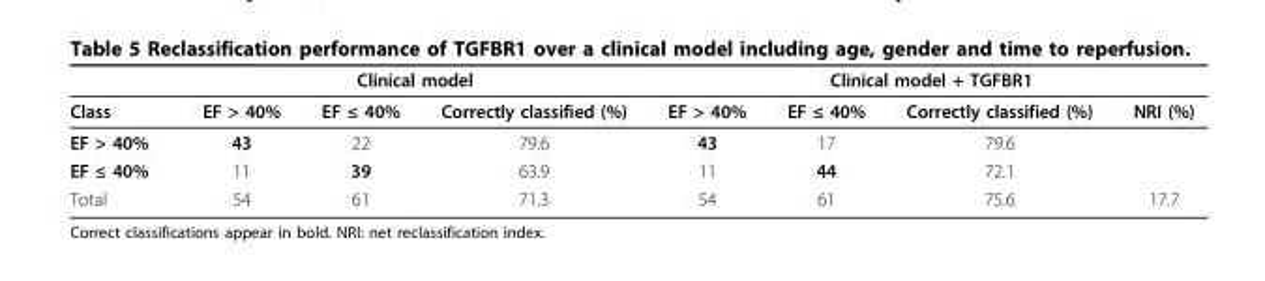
<table><thead><tr><td rowspan="2">Class</td><td colspan="3">Clinical model</td><td colspan="4">Clinical model + TGFBR1</td></tr><tr><td>EF &gt; 40%</td><td>EF ≤ 40%</td><td>Correctly classified (%)</td><td>EF &gt; 40%</td><td>EF ≤ 40%</td><td>Correctly classified (%)</td><td>NRI (%)</td></tr></thead><tbody><tr><td>EF &gt; 40%</td><td>43</td><td>22</td><td>79.6</td><td>43</td><td>17</td><td>79.6</td><td></td></tr><tr><td>EF ≤ 40%</td><td>11</td><td>39</td><td>63.9</td><td>11</td><td>44</td><td>72.1</td><td></td></tr><tr><td>Total</td><td>54</td><td>61</td><td>71.3</td><td>54</td><td>61</td><td>75.6</td><td>17.7</td></tr></tbody></table>